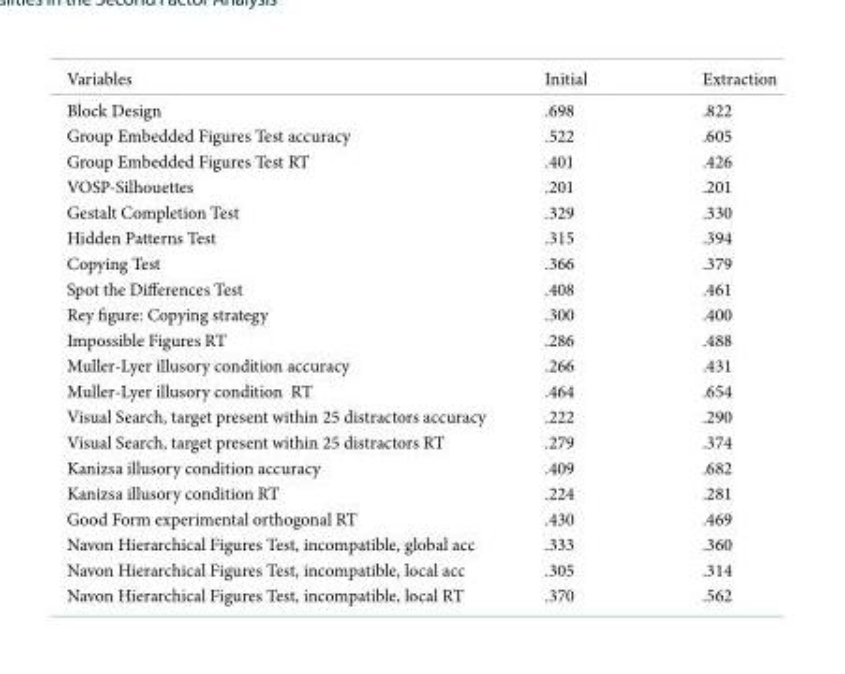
<table><thead><tr><td>Variables</td><td>Initial</td><td>Extraction</td></tr></thead><tbody><tr><td>Block Design</td><td>.698</td><td>.822</td></tr><tr><td>Group Embedded Figures Test accuracy</td><td>.522</td><td>.605</td></tr><tr><td>Group Embedded Figures Test RT</td><td>.401</td><td>.426</td></tr><tr><td>VOSP-Silhouettes</td><td>.201</td><td>.201</td></tr><tr><td>Gestalt Completion Test</td><td>.329</td><td>.330</td></tr><tr><td>Hidden Patterns Test</td><td>.315</td><td>.394</td></tr><tr><td>Copying Test</td><td>.366</td><td>.379</td></tr><tr><td>Spot the Differences Test</td><td>.408</td><td>.461</td></tr><tr><td>Rey figure: Copying strategy</td><td>.300</td><td>.400</td></tr><tr><td>Impossible Figures RT</td><td>.286</td><td>.488</td></tr><tr><td>Muller-Lyer illusory condition accuracy</td><td>.266</td><td>.431</td></tr><tr><td>Muller-Lyer illusory condition RT</td><td>.464</td><td>.654</td></tr><tr><td>Visual Search, target present within 25 distractors accuracy</td><td>.222</td><td>.290</td></tr><tr><td>Visual Search, target present within 25 distractors RT</td><td>.279</td><td>.374</td></tr><tr><td>Kanizsa illusory condition accuracy</td><td>.409</td><td>.682</td></tr><tr><td>Kanizsa illusory condition RT</td><td>.224</td><td>.281</td></tr><tr><td>Good Form experimental orthogonal RT</td><td>.430</td><td>.469</td></tr><tr><td>Navon Hierarchical Figures Test, incompatible, global acc</td><td>.333</td><td>.360</td></tr><tr><td>Navon Hierarchical Figures Test, incompatible, local acc</td><td>.305</td><td>.314</td></tr><tr><td>Navon Hierarchical Figures Test, incompatible, local RT</td><td>.370</td><td>.562</td></tr></tbody></table>